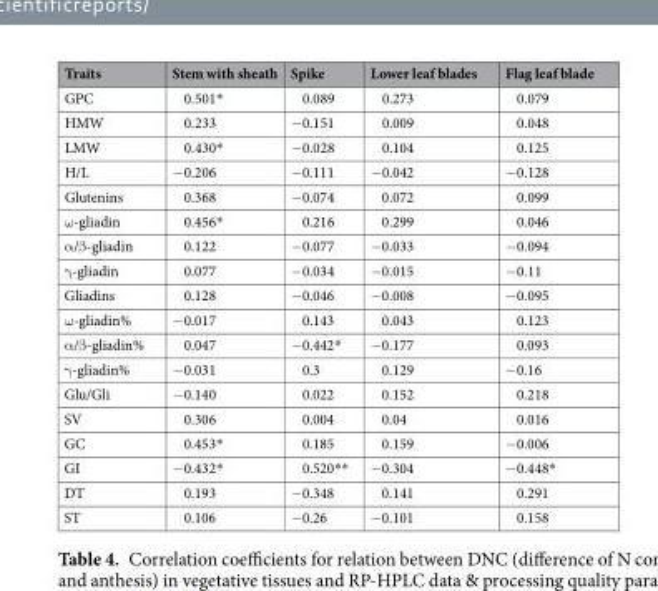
<table><thead><tr><td>Traits</td><td>Stem with sheath</td><td>Spike</td><td>Lower leaf blades</td><td>Flag leaf blade</td></tr></thead><tbody><tr><td>GPC</td><td>0.501*</td><td>0.089</td><td>0.273</td><td>0.079</td></tr><tr><td>HMW</td><td>0.233</td><td>−0.151</td><td>0.009</td><td>0.048</td></tr><tr><td>LMW</td><td>0.430*</td><td>−0.028</td><td>0.104</td><td>0.125</td></tr><tr><td>H/L</td><td>−0.206</td><td>−0.111</td><td>−0.042</td><td>−0.128</td></tr><tr><td>Glutenins</td><td>0.368</td><td>−0.074</td><td>0.072</td><td>0.099</td></tr><tr><td>ω-gliadin</td><td>0.456*</td><td>0.216</td><td>0.299</td><td>0.046</td></tr><tr><td>α/β-gliadin</td><td>0.122</td><td>−0.077</td><td>−0.033</td><td>−0.094</td></tr><tr><td>γ-gliadin</td><td>0.077</td><td>−0.034</td><td>−0.015</td><td>−0.11</td></tr><tr><td>Gliadins</td><td>0.128</td><td>−0.046</td><td>−0.008</td><td>−0.095</td></tr><tr><td>ω-gliadin%</td><td>−0.017</td><td>0.143</td><td>0.043</td><td>0.123</td></tr><tr><td>α/β-gliadin%</td><td>0.047</td><td>−0.442*</td><td>−0.177</td><td>0.093</td></tr><tr><td>γ-gliadin%</td><td>−0.031</td><td>0.3</td><td>0.129</td><td>−0.16</td></tr><tr><td>Glu/Gli</td><td>−0.140</td><td>0.022</td><td>0.152</td><td>0.218</td></tr><tr><td>SV</td><td>0.306</td><td>0.004</td><td>0.04</td><td>0.016</td></tr><tr><td>GC</td><td>0.453*</td><td>0.185</td><td>0.159</td><td>−0.006</td></tr><tr><td>GI</td><td>−0.432*</td><td>0.520**</td><td>−0.304</td><td>−0.448*</td></tr><tr><td>DT</td><td>0.193</td><td>−0.348</td><td>0.141</td><td>0.291</td></tr><tr><td>ST</td><td>0.106</td><td>−0.26</td><td>−0.101</td><td>0.158</td></tr></tbody></table>